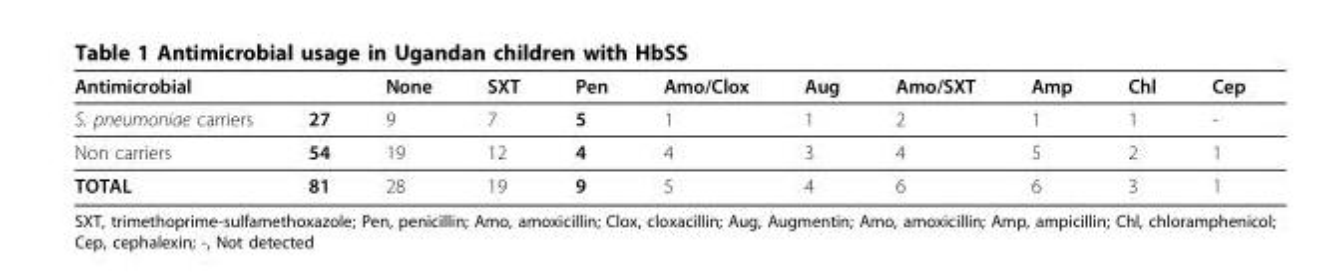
<table><thead><tr><td>Antimicrobial</td><td></td><td>None</td><td>SXT</td><td>Pen</td><td>Amo/Clox</td><td>Aug</td><td>Amo/SXT</td><td>Amp</td><td>Chl</td><td>Cep</td></tr></thead><tbody><tr><td>S. pneumoniae carriers</td><td>27</td><td>9</td><td>7</td><td>5</td><td>1</td><td>1</td><td>2</td><td>1</td><td>1</td><td>-</td></tr><tr><td>Non carriers</td><td>54</td><td>19</td><td>12</td><td>4</td><td>4</td><td>3</td><td>4</td><td>5</td><td>2</td><td>1</td></tr><tr><td>TOTAL</td><td>81</td><td>28</td><td>19</td><td>9</td><td>5</td><td>4</td><td>6</td><td>6</td><td>3</td><td>1</td></tr></tbody></table>